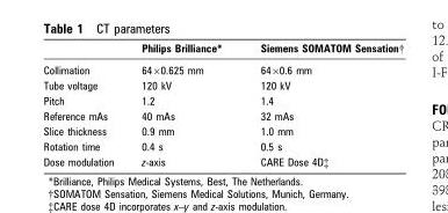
<table><thead><tr><td></td><td>Philips Brilliance*</td><td>Siemens SOMATOM Sensation†</td></tr></thead><tbody><tr><td>Collimation</td><td>64×0.625 mm</td><td>64×0.6 mm</td></tr><tr><td>Tube voltage</td><td>120 kV</td><td>120 kV</td></tr><tr><td>Pitch</td><td>1.2</td><td>1.4</td></tr><tr><td>Reference mAs</td><td>40 mAs</td><td>32 mAs</td></tr><tr><td>Slice thickness</td><td>0.9 mm</td><td>1.0 mm</td></tr><tr><td>Rotation time</td><td>0.4 s</td><td>0.5 s</td></tr><tr><td>Dose modulation</td><td>z-axis</td><td>CARE Dose 4D‡</td></tr></tbody></table>